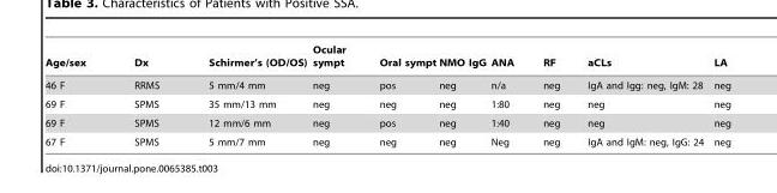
<table><thead><tr><td>Age/sex</td><td>Dx</td><td>Schirmer’s (OD/OS)</td><td>Ocular sympt</td><td>Oral sympt</td><td>NMO IgG</td><td>ANA</td><td>RF</td><td>aCLs</td><td>LA</td></tr></thead><tbody><tr><td>46 F</td><td>RRMS</td><td>5 mm/4 mm</td><td>neg</td><td>pos</td><td>neg</td><td>n/a</td><td>neg</td><td>IgA and Igg: neg, IgM: 28</td><td>neg</td></tr><tr><td>69 F</td><td>SPMS</td><td>35 mm/13 mm</td><td>neg</td><td>neg</td><td>neg</td><td>1:80</td><td>neg</td><td>neg</td><td>neg</td></tr><tr><td>69 F</td><td>SPMS</td><td>12 mm/6 mm</td><td>neg</td><td>pos</td><td>neg</td><td>1:40</td><td>neg</td><td>neg</td><td>neg</td></tr><tr><td>67 F</td><td>SPMS</td><td>5 mm/7 mm</td><td>neg</td><td>neg</td><td>neg</td><td>Neg</td><td>neg</td><td>IgA and IgM: neg, IgG: 24</td><td>neg</td></tr></tbody></table>